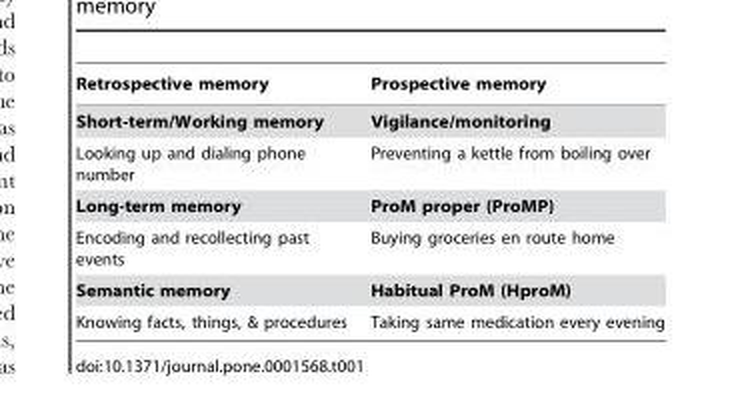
<table><thead><tr><td>Retrospective memory</td><td>Prospective memory</td></tr></thead><tbody><tr><td>Short-term/Working memory</td><td>Vigilance/monitoring</td></tr><tr><td>Looking up and dialing phone number</td><td>Preventing a kettle from boiling over</td></tr><tr><td>Long-term memory</td><td>ProM proper (ProMP)</td></tr><tr><td>Encoding and recollecting past events</td><td>Buying groceries en route home</td></tr><tr><td>Semantic memory</td><td>Habitual ProM (HproM)</td></tr><tr><td>Knowing facts, things, &amp; procedures</td><td>Taking same medication every evening</td></tr></tbody></table>